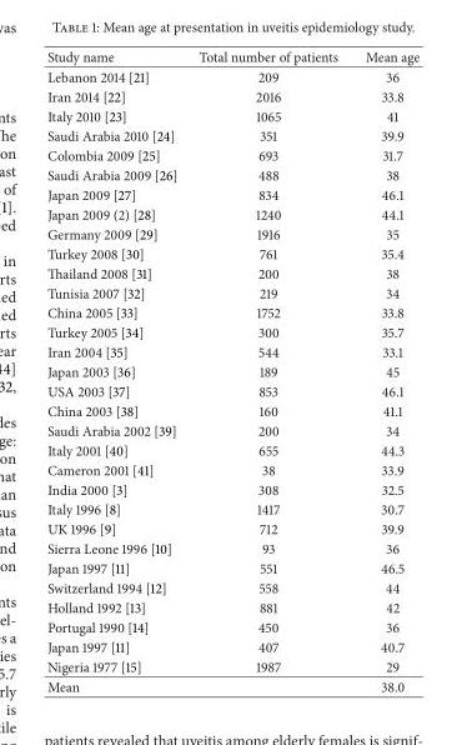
<table><thead><tr><td>Study name</td><td>Total number of patients</td><td>Mean age</td></tr></thead><tbody><tr><td>Lebanon 2014 [21]</td><td>209</td><td>36</td></tr><tr><td>Iran 2014 [22]</td><td>2016</td><td>33.8</td></tr><tr><td>Italy 2010 [23]</td><td>1065</td><td>41</td></tr><tr><td>Saudi Arabia 2010 [24]</td><td>351</td><td>39.9</td></tr><tr><td>Colombia 2009 [25]</td><td>693</td><td>31.7</td></tr><tr><td>Saudi Arabia 2009 [26]</td><td>488</td><td>38</td></tr><tr><td>Japan 2009 [27]</td><td>834</td><td>46.1</td></tr><tr><td>Japan 2009 (2) [28]</td><td>1240</td><td>44.1</td></tr><tr><td>Germany 2009 [29]</td><td>1916</td><td>35</td></tr><tr><td>Turkey 2008 [30]</td><td>761</td><td>35.4</td></tr><tr><td>Thailand 2008 [31]</td><td>200</td><td>38</td></tr><tr><td>Tunisia 2007 [32]</td><td>219</td><td>34</td></tr><tr><td>China 2005 [33]</td><td>1752</td><td>33.8</td></tr><tr><td>Turkey 2005 [34]</td><td>300</td><td>35.7</td></tr><tr><td>Iran 2004 [35]</td><td>544</td><td>33.1</td></tr><tr><td>Japan 2003 [36]</td><td>189</td><td>45</td></tr><tr><td>USA 2003 [37]</td><td>853</td><td>46.1</td></tr><tr><td>China 2003 [38]</td><td>160</td><td>41.1</td></tr><tr><td>Saudi Arabia 2002 [39]</td><td>200</td><td>34</td></tr><tr><td>Italy 2001 [40]</td><td>655</td><td>44.3</td></tr><tr><td>Cameron 2001 [41]</td><td>38</td><td>33.9</td></tr><tr><td>India 2000 [3]</td><td>308</td><td>32.5</td></tr><tr><td>Italy 1996 [8]</td><td>1417</td><td>30.7</td></tr><tr><td>UK 1996 [9]</td><td>712</td><td>39.9</td></tr><tr><td>Sierra Leone 1996 [10]</td><td>93</td><td>36</td></tr><tr><td>Japan 1997 [11]</td><td>551</td><td>46.5</td></tr><tr><td>Switzerland 1994 [12]</td><td>558</td><td>44</td></tr><tr><td>Holland 1992 [13]</td><td>881</td><td>42</td></tr><tr><td>Portugal 1990 [14]</td><td>450</td><td>36</td></tr><tr><td>Japan 1997 [11]</td><td>407</td><td>40.7</td></tr><tr><td>Nigeria 1977 [15]</td><td>1987</td><td>29</td></tr><tr><td>Mean</td><td></td><td>38.0</td></tr></tbody></table>